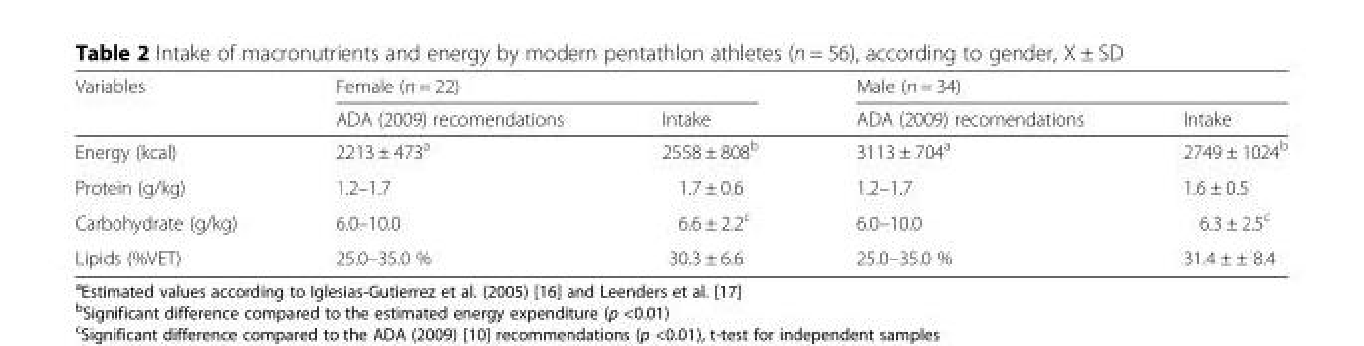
<table><thead><tr><td rowspan="2">Variables</td><td colspan="2">Female (n = 22)</td><td colspan="2">Male (n = 34)</td></tr><tr><td>ADA (2009) recomendations</td><td>Intake</td><td>ADA (2009) recomendations</td><td>Intake</td></tr></thead><tbody><tr><td>Energy (kcal)</td><td>2213 ± 473<sup>a</sup></td><td>2558 ± 808<sup>b</sup></td><td>3113 ± 704<sup>a</sup></td><td>2749 ± 1024<sup>b</sup></td></tr><tr><td>Protein (g/kg)</td><td>1.2–1.7</td><td>1.7 ± 0.6</td><td>1.2–1.7</td><td>1.6 ± 0.5</td></tr><tr><td>Carbohydrate (g/kg)</td><td>6.0–10.0</td><td>6.6 ± 2.2<sup>c</sup></td><td>6.0–10.0</td><td>6.3 ± 2.5<sup>c</sup></td></tr><tr><td>Lipids (%VET)</td><td>25.0–35.0 %</td><td>30.3 ± 6.6</td><td>25.0–35.0 %</td><td>31.4 ± ± 8.4</td></tr></tbody></table>